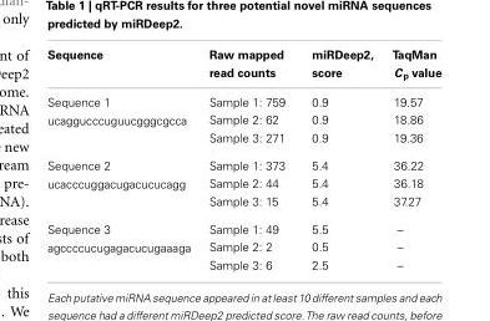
<table><thead><tr><td>Sequence</td><td>Raw mapped read counts</td><td>miRDeep2, score</td><td>TaqMan C<sub>p</sub> value</td></tr></thead><tbody><tr><td>Sequence 1 ucaggucccuguucgggcgcca</td><td>Sample 1: 759 Sample 2: 62 Sample 3: 271</td><td>0.9 0.9 0.9</td><td>19.57 18.86 19.36</td></tr><tr><td>Sequence 2 ucacccuggacugacucucagg</td><td>Sample 1: 373 Sample 2: 44 Sample 3: 15</td><td>5.4 5.4 5.4</td><td>36.22 36.18 37.27</td></tr><tr><td>Sequence 3 agccccucugagacucugaaaga</td><td>Sample 1: 49 Sample 2: 2 Sample 3: 6</td><td>5.5 0.5 2.5</td><td>– – –</td></tr></tbody></table>